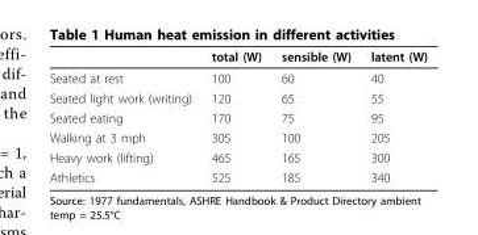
<table><thead><tr><td></td><td>total (W)</td><td>sensible (W)</td><td>latent (W)</td></tr></thead><tbody><tr><td>Seated at rest</td><td>100</td><td>60</td><td>40</td></tr><tr><td>Seated light work (writing)</td><td>120</td><td>65</td><td>55</td></tr><tr><td>Seated eating</td><td>170</td><td>75</td><td>95</td></tr><tr><td>Walking at 3 mph</td><td>305</td><td>100</td><td>205</td></tr><tr><td>Heavy work (lifting)</td><td>465</td><td>165</td><td>300</td></tr><tr><td>Athletics</td><td>525</td><td>185</td><td>340</td></tr></tbody></table>